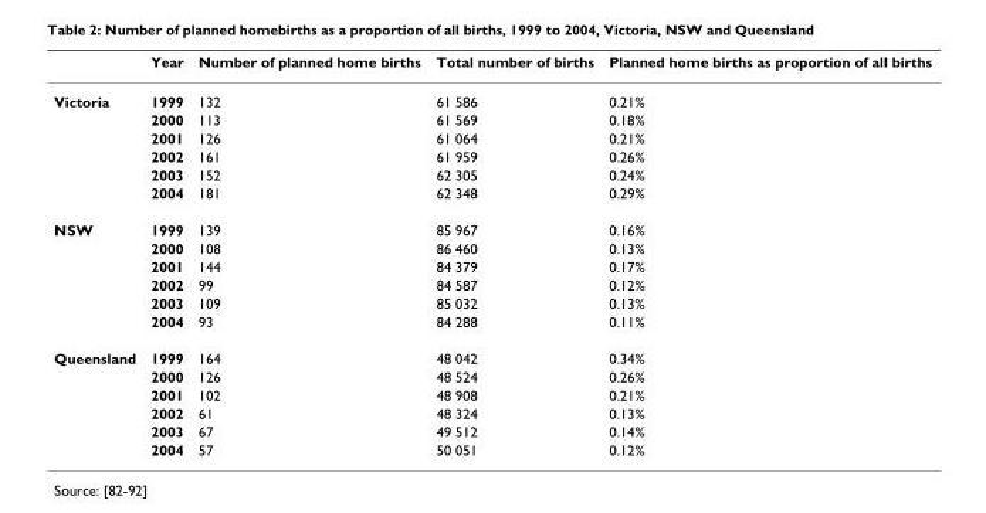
<table><thead><tr><td></td><td>Year</td><td>Number of planned home births</td><td>Total number of births</td><td>Planned home births as proportion of all births</td></tr></thead><tbody><tr><td rowspan="6">Victoria</td><td>1999</td><td>132</td><td>61 586</td><td>0.21%</td></tr><tr><td>2000</td><td>113</td><td>61 569</td><td>0.18%</td></tr><tr><td>2001</td><td>126</td><td>61 064</td><td>0.21%</td></tr><tr><td>2002</td><td>161</td><td>61 959</td><td>0.26%</td></tr><tr><td>2003</td><td>152</td><td>62 305</td><td>0.24%</td></tr><tr><td>2004</td><td>181</td><td>62 348</td><td>0.29%</td></tr><tr><td rowspan="6">NSW</td><td>1999</td><td>139</td><td>85 967</td><td>0.16%</td></tr><tr><td>2000</td><td>108</td><td>86 460</td><td>0.13%</td></tr><tr><td>2001</td><td>144</td><td>84 379</td><td>0.17%</td></tr><tr><td>2002</td><td>99</td><td>84 587</td><td>0.12%</td></tr><tr><td>2003</td><td>109</td><td>85 032</td><td>0.13%</td></tr><tr><td>2004</td><td>93</td><td>84 288</td><td>0.11%</td></tr><tr><td rowspan="6">Queensland</td><td>1999</td><td>164</td><td>48 042</td><td>0.34%</td></tr><tr><td>2000</td><td>126</td><td>48 524</td><td>0.26%</td></tr><tr><td>2001</td><td>102</td><td>48 908</td><td>0.21%</td></tr><tr><td>2002</td><td>61</td><td>48 324</td><td>0.13%</td></tr><tr><td>2003</td><td>67</td><td>49 512</td><td>0.14%</td></tr><tr><td>2004</td><td>57</td><td>50 051</td><td>0.12%</td></tr></tbody></table>